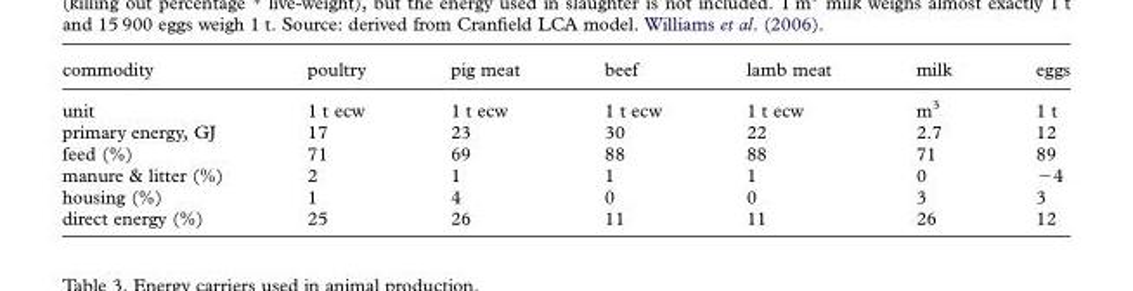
<table><thead><tr><td>commodity</td><td>poultry</td><td>pig meat</td><td>beef</td><td>lamb meat</td><td>milk</td><td>eggs</td></tr></thead><tbody><tr><td>unit</td><td>1 t ecw</td><td>1 t ecw</td><td>1 t ecw</td><td>1 t ecw</td><td>m<sup>3</sup></td><td>1 t</td></tr><tr><td>primary energy, GJ</td><td>17</td><td>23</td><td>30</td><td>22</td><td>2.7</td><td>12</td></tr><tr><td>feed (%)</td><td>71</td><td>69</td><td>88</td><td>88</td><td>71</td><td>89</td></tr><tr><td>manure &amp; litter (%)</td><td>2</td><td>1</td><td>1</td><td>1</td><td>0</td><td>−4</td></tr><tr><td>housing (%)</td><td>1</td><td>4</td><td>0</td><td>0</td><td>3</td><td>3</td></tr><tr><td>direct energy (%)</td><td>25</td><td>26</td><td>11</td><td>11</td><td>26</td><td>12</td></tr></tbody></table>